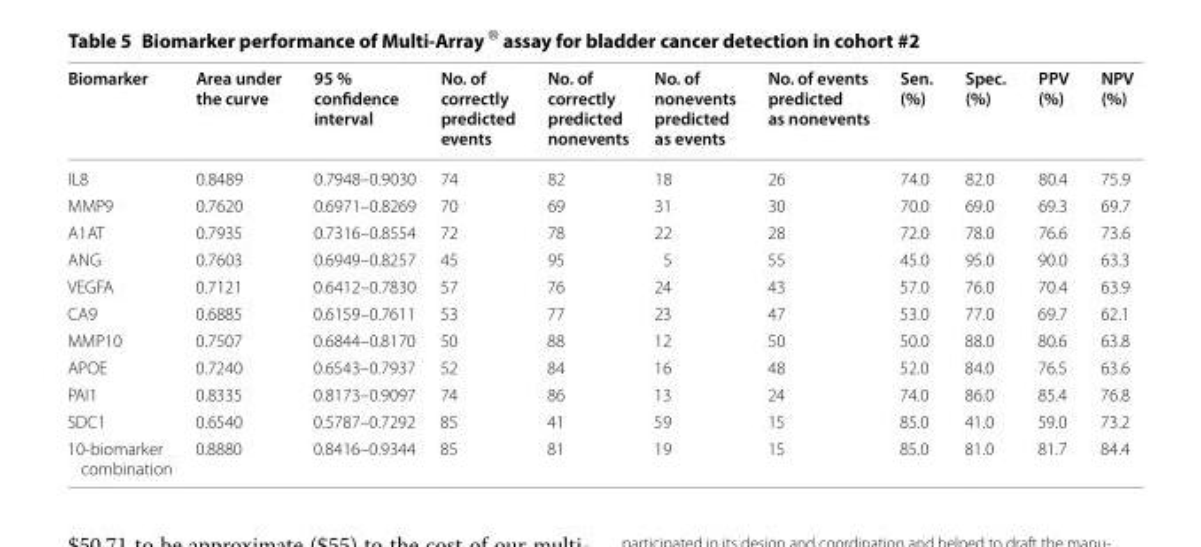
<table><thead><tr><td>Biomarker</td><td>Area under the curve</td><td>95 % confidence interval</td><td>No. of correctly predicted events</td><td>No. of correctly predicted nonevents</td><td>No. of nonevents predicted as events</td><td>No. of events predicted as nonevents</td><td>Sen. (%)</td><td>Spec. (%)</td><td>PPV (%)</td><td>NPV (%)</td></tr></thead><tbody><tr><td>IL8</td><td>0.8489</td><td>0.7948–0.9030</td><td>74</td><td>82</td><td>18</td><td>26</td><td>74.0</td><td>82.0</td><td>80.4</td><td>75.9</td></tr><tr><td>MMP9</td><td>0.7620</td><td>0.6971–0.8269</td><td>70</td><td>69</td><td>31</td><td>30</td><td>70.0</td><td>69.0</td><td>69.3</td><td>69.7</td></tr><tr><td>A1AT</td><td>0.7935</td><td>0.7316–0.8554</td><td>72</td><td>78</td><td>22</td><td>28</td><td>72.0</td><td>78.0</td><td>76.6</td><td>73.6</td></tr><tr><td>ANG</td><td>0.7603</td><td>0.6949–0.8257</td><td>45</td><td>95</td><td>5</td><td>55</td><td>45.0</td><td>95.0</td><td>90.0</td><td>63.3</td></tr><tr><td>VEGFA</td><td>0.7121</td><td>0.6412–0.7830</td><td>57</td><td>76</td><td>24</td><td>43</td><td>57.0</td><td>76.0</td><td>70.4</td><td>63.9</td></tr><tr><td>CA9</td><td>0.6885</td><td>0.6159–0.7611</td><td>53</td><td>77</td><td>23</td><td>47</td><td>53.0</td><td>77.0</td><td>69.7</td><td>62.1</td></tr><tr><td>MMP10</td><td>0.7507</td><td>0.6844–0.8170</td><td>50</td><td>88</td><td>12</td><td>50</td><td>50.0</td><td>88.0</td><td>80.6</td><td>63.8</td></tr><tr><td>APOE</td><td>0.7240</td><td>0.6543–0.7937</td><td>52</td><td>84</td><td>16</td><td>48</td><td>52.0</td><td>84.0</td><td>76.5</td><td>63.6</td></tr><tr><td>PAI1</td><td>0.8335</td><td>0.8173–0.9097</td><td>74</td><td>86</td><td>13</td><td>24</td><td>74.0</td><td>86.0</td><td>85.4</td><td>76.8</td></tr><tr><td>SDC1</td><td>0.6540</td><td>0.5787–0.7292</td><td>85</td><td>41</td><td>59</td><td>15</td><td>85.0</td><td>41.0</td><td>59.0</td><td>73.2</td></tr><tr><td>10-biomarker combination</td><td>0.8880</td><td>0.8416–0.9344</td><td>85</td><td>81</td><td>19</td><td>15</td><td>85.0</td><td>81.0</td><td>81.7</td><td>84.4</td></tr></tbody></table>